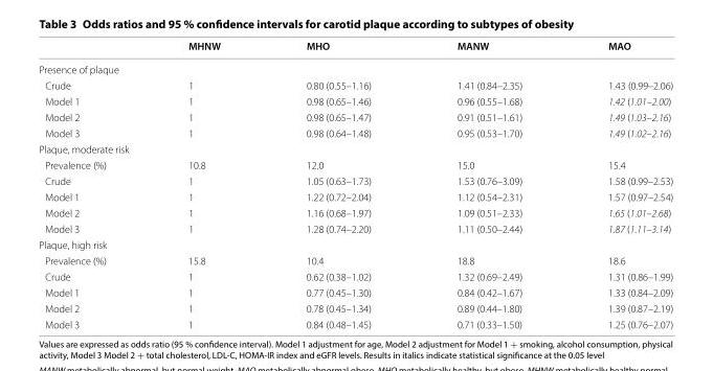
<table><thead><tr><td></td><td>MHNW</td><td>MHO</td><td>MANW</td><td>MAO</td></tr></thead><tbody><tr><td colspan="5">Presence of plaque</td></tr><tr><td>Crude</td><td>1</td><td>0.80 (0.55–1.16)</td><td>1.41 (0.84–2.35)</td><td>1.43 (0.99–2.06)</td></tr><tr><td>Model 1</td><td>1</td><td>0.98 (0.65–1.46)</td><td>0.96 (0.55–1.68)</td><td>1.42 (1.01–2.00)</td></tr><tr><td>Model 2</td><td>1</td><td>0.98 (0.65–1.47)</td><td>0.91 (0.51–1.61)</td><td>1.49 (1.03–2.16)</td></tr><tr><td>Model 3</td><td>1</td><td>0.98 (0.64–1.48)</td><td>0.95 (0.53–1.70)</td><td>1.49 (1.02–2.16)</td></tr><tr><td colspan="5">Plaque, moderate risk</td></tr><tr><td>Prevalence (%)</td><td>10.8</td><td>12.0</td><td>15.0</td><td>15.4</td></tr><tr><td>Crude</td><td>1</td><td>1.05 (0.63–1.73)</td><td>1.53 (0.76–3.09)</td><td>1.58 (0.99–2.53)</td></tr><tr><td>Model 1</td><td>1</td><td>1.22 (0.72–2.04)</td><td>1.12 (0.54–2.31)</td><td>1.57 (0.97–2.54)</td></tr><tr><td>Model 2</td><td>1</td><td>1.16 (0.68–1.97)</td><td>1.09 (0.51–2.33)</td><td>1.65 (1.01–2.68)</td></tr><tr><td>Model 3</td><td>1</td><td>1.28 (0.74–2.20)</td><td>1.11 (0.50–2.44)</td><td>1.87 (1.11–3.14)</td></tr><tr><td colspan="5">Plaque, high risk</td></tr><tr><td>Prevalence (%)</td><td>15.8</td><td>10.4</td><td>18.8</td><td>18.6</td></tr><tr><td>Crude</td><td>1</td><td>0.62 (0.38–1.02)</td><td>1.32 (0.69–2.49)</td><td>1.31 (0.86–1.99)</td></tr><tr><td>Model 1</td><td>1</td><td>0.77 (0.45–1.30)</td><td>0.84 (0.42–1.67)</td><td>1.33 (0.84–2.09)</td></tr><tr><td>Model 2</td><td>1</td><td>0.78 (0.45–1.34)</td><td>0.89 (0.44–1.80)</td><td>1.39 (0.87–2.19)</td></tr><tr><td>Model 3</td><td>1</td><td>0.84 (0.48–1.45)</td><td>0.71 (0.33–1.50)</td><td>1.25 (0.76–2.07)</td></tr></tbody></table>